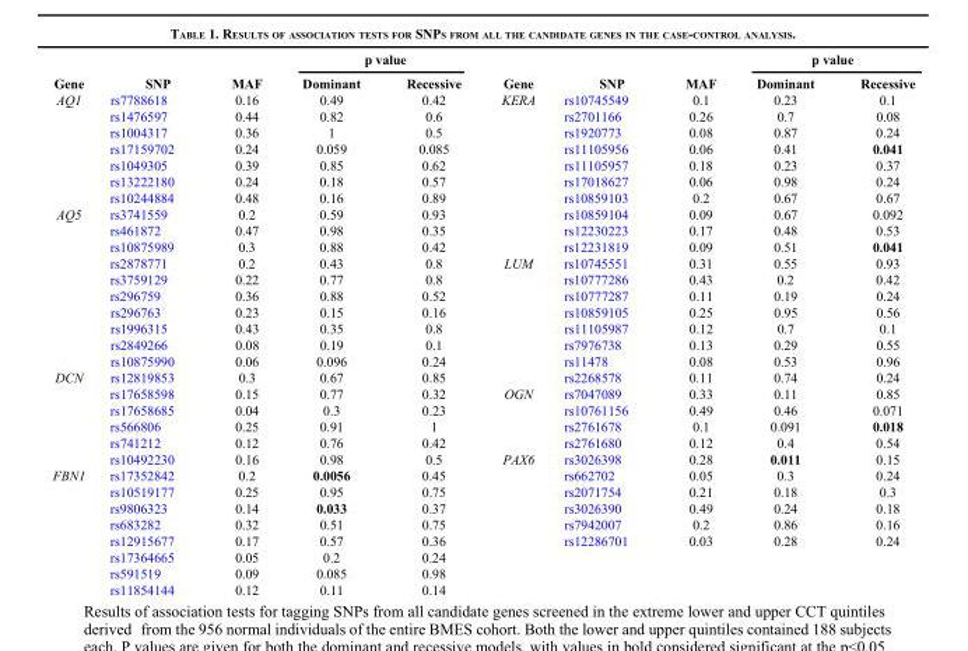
<table><thead><tr><td rowspan="2">Gene</td><td rowspan="2">SNP</td><td rowspan="2">MAF</td><td colspan="2">p value</td><td rowspan="2">Gene</td><td rowspan="2">SNP</td><td rowspan="2">MAF</td><td colspan="2">p value</td></tr><tr><td>Dominant</td><td>Recessive</td><td>Dominant</td><td>Recessive</td></tr></thead><tbody><tr><td rowspan="7">AQ1</td><td>rs7788618</td><td>0.16</td><td>0.49</td><td>0.42</td><td>KERA</td><td>rs10745549</td><td>0.1</td><td>0.23</td><td>0.1</td></tr><tr><td>rs1476597</td><td>0.44</td><td>0.82</td><td>0.6</td><td></td><td>rs2701166</td><td>0.26</td><td>0.7</td><td>0.08</td></tr><tr><td>rs1004317</td><td>0.36</td><td>1</td><td>0.5</td><td></td><td>rs1920773</td><td>0.08</td><td>0.87</td><td>0.24</td></tr><tr><td>rs17159702</td><td>0.24</td><td>0.059</td><td>0.085</td><td></td><td>rs11105956</td><td>0.06</td><td>0.41</td><td>0.041</td></tr><tr><td>rs1049305</td><td>0.39</td><td>0.85</td><td>0.62</td><td></td><td>rs11105957</td><td>0.18</td><td>0.23</td><td>0.37</td></tr><tr><td>rs13222180</td><td>0.24</td><td>0.18</td><td>0.57</td><td></td><td>rs17018627</td><td>0.06</td><td>0.98</td><td>0.24</td></tr><tr><td>rs10244884</td><td>0.48</td><td>0.16</td><td>0.89</td><td></td><td>rs10859103</td><td>0.2</td><td>0.67</td><td>0.67</td></tr><tr><td rowspan="10">AQ5</td><td>rs3741559</td><td>0.2</td><td>0.59</td><td>0.93</td><td></td><td>rs10859104</td><td>0.09</td><td>0.67</td><td>0.092</td></tr><tr><td>rs461872</td><td>0.47</td><td>0.98</td><td>0.35</td><td></td><td>rs12230223</td><td>0.17</td><td>0.48</td><td>0.53</td></tr><tr><td>rs10875989</td><td>0.3</td><td>0.88</td><td>0.42</td><td></td><td>rs12231819</td><td>0.09</td><td>0.51</td><td>0.041</td></tr><tr><td>rs2878771</td><td>0.2</td><td>0.43</td><td>0.8</td><td>LUM</td><td>rs10745551</td><td>0.31</td><td>0.55</td><td>0.93</td></tr><tr><td>rs3759129</td><td>0.22</td><td>0.77</td><td>0.8</td><td></td><td>rs10777286</td><td>0.43</td><td>0.2</td><td>0.42</td></tr><tr><td>rs296759</td><td>0.36</td><td>0.88</td><td>0.52</td><td></td><td>rs10777287</td><td>0.11</td><td>0.19</td><td>0.24</td></tr><tr><td>rs296763</td><td>0.23</td><td>0.15</td><td>0.16</td><td></td><td>rs10859105</td><td>0.25</td><td>0.95</td><td>0.56</td></tr><tr><td>rs1996315</td><td>0.43</td><td>0.35</td><td>0.8</td><td></td><td>rs11105987</td><td>0.12</td><td>0.7</td><td>0.1</td></tr><tr><td>rs2849266</td><td>0.08</td><td>0.19</td><td>0.1</td><td></td><td>rs7976738</td><td>0.13</td><td>0.29</td><td>0.55</td></tr><tr><td>rs10875990</td><td>0.06</td><td>0.096</td><td>0.24</td><td></td><td>rs11478</td><td>0.08</td><td>0.53</td><td>0.96</td></tr><tr><td rowspan="6">DCN</td><td>rs12819853</td><td>0.3</td><td>0.67</td><td>0.85</td><td></td><td>rs2268578</td><td>0.11</td><td>0.74</td><td>0.24</td></tr><tr><td>rs17658598</td><td>0.15</td><td>0.77</td><td>0.32</td><td>OGN</td><td>rs7047089</td><td>0.33</td><td>0.11</td><td>0.85</td></tr><tr><td>rs17658685</td><td>0.04</td><td>0.3</td><td>0.23</td><td></td><td>rs10761156</td><td>0.49</td><td>0.46</td><td>0.071</td></tr><tr><td>rs566806</td><td>0.25</td><td>0.91</td><td>1</td><td></td><td>rs2761678</td><td>0.1</td><td>0.091</td><td>0.018</td></tr><tr><td>rs741212</td><td>0.12</td><td>0.76</td><td>0.42</td><td></td><td>rs2761680</td><td>0.12</td><td>0.4</td><td>0.54</td></tr><tr><td>rs10492230</td><td>0.16</td><td>0.98</td><td>0.5</td><td>PAX6</td><td>rs3026398</td><td>0.28</td><td>0.011</td><td>0.15</td></tr><tr><td rowspan="8">FBN1</td><td>rs17352842</td><td>0.2</td><td>0.0056</td><td>0.45</td><td></td><td>rs662702</td><td>0.05</td><td>0.3</td><td>0.24</td></tr><tr><td>rs10519177</td><td>0.25</td><td>0.95</td><td>0.75</td><td></td><td>rs2071754</td><td>0.21</td><td>0.18</td><td>0.3</td></tr><tr><td>rs9806323</td><td>0.14</td><td>0.033</td><td>0.37</td><td></td><td>rs3026390</td><td>0.49</td><td>0.24</td><td>0.18</td></tr><tr><td>rs683282</td><td>0.32</td><td>0.51</td><td>0.75</td><td></td><td>rs7942007</td><td>0.2</td><td>0.86</td><td>0.16</td></tr><tr><td>rs12915677</td><td>0.17</td><td>0.57</td><td>0.36</td><td></td><td>rs12286701</td><td>0.03</td><td>0.28</td><td>0.24</td></tr><tr><td>rs17364665</td><td>0.05</td><td>0.2</td><td>0.24</td><td></td><td></td><td></td><td></td><td></td></tr><tr><td>rs591519</td><td>0.09</td><td>0.085</td><td>0.98</td><td></td><td></td><td></td><td></td><td></td></tr><tr><td>rs11854144</td><td>0.12</td><td>0.11</td><td>0.14</td><td></td><td></td><td></td><td></td><td></td></tr></tbody></table>